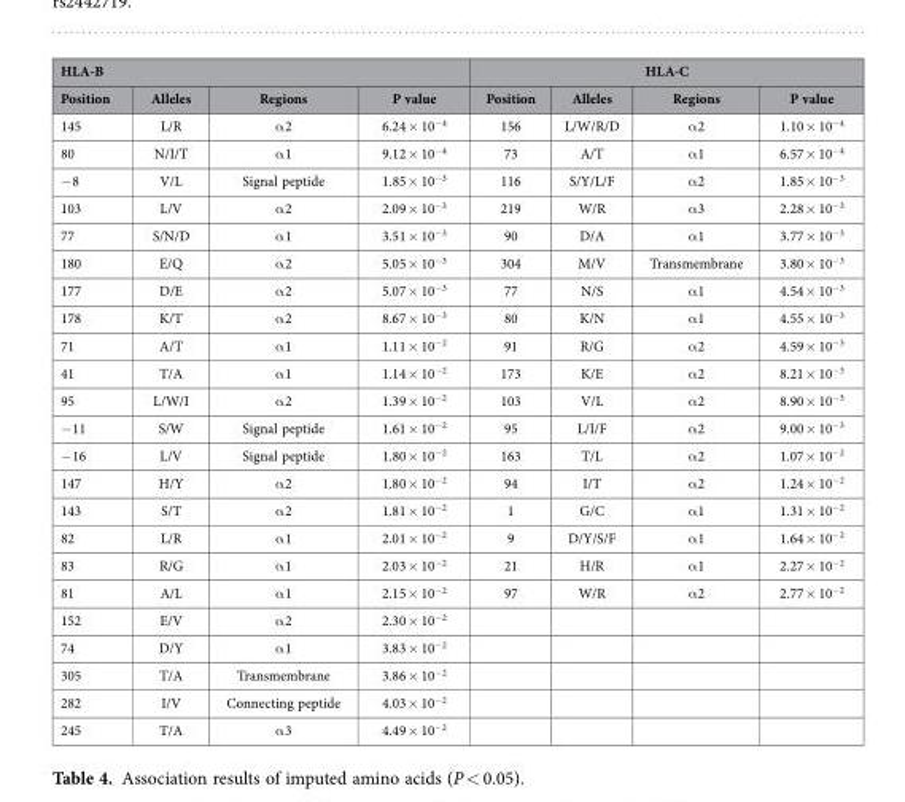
<table><thead><tr><td colspan="4">HLA-B</td><td colspan="4">HLA-C</td></tr><tr><td>Position</td><td>Alleles</td><td>Regions</td><td>P value</td><td>Position</td><td>Alleles</td><td>Regions</td><td>P value</td></tr></thead><tbody><tr><td>145</td><td>L/R</td><td>α 2</td><td>6.24 × 10<sup>−4</sup></td><td>156</td><td>L/W/R/D</td><td>α 2</td><td>1.10 × 10<sup>−4</sup></td></tr><tr><td>80</td><td>N/I/T</td><td>α 1</td><td>9.12 × 10<sup>−4</sup></td><td>73</td><td>A/T</td><td>α 1</td><td>6.57 × 10<sup>−4</sup></td></tr><tr><td>− 8</td><td>V/L</td><td>Signal peptide</td><td>1.85 × 10<sup>−3</sup></td><td>116</td><td>S/Y/L/F</td><td>α 2</td><td>1.85 × 10<sup>−3</sup></td></tr><tr><td>103</td><td>L/V</td><td>α 2</td><td>2.09 × 10<sup>−3</sup></td><td>219</td><td>W/R</td><td>α 3</td><td>2.28 × 10<sup>−3</sup></td></tr><tr><td>77</td><td>S/N/D</td><td>α 1</td><td>3.51 × 10<sup>−3</sup></td><td>90</td><td>D/A</td><td>α 1</td><td>3.77 × 10<sup>−3</sup></td></tr><tr><td>180</td><td>E/Q</td><td>α 2</td><td>5.05 × 10<sup>−3</sup></td><td>304</td><td>M/V</td><td>Transmembrane</td><td>3.80 × 10<sup>−3</sup></td></tr><tr><td>177</td><td>D/E</td><td>α 2</td><td>5.07 × 10<sup>−3</sup></td><td>77</td><td>N/S</td><td>α 1</td><td>4.54 × 10<sup>−3</sup></td></tr><tr><td>178</td><td>K/T</td><td>α 2</td><td>8.67 × 10<sup>−3</sup></td><td>80</td><td>K/N</td><td>α 1</td><td>4.55 × 10<sup>−3</sup></td></tr><tr><td>71</td><td>A/T</td><td>α 1</td><td>1.11 × 10<sup>−2</sup></td><td>91</td><td>R/G</td><td>α 2</td><td>4.59 × 10<sup>−3</sup></td></tr><tr><td>41</td><td>T/A</td><td>α 1</td><td>1.14 × 10<sup>−2</sup></td><td>173</td><td>K/E</td><td>α 2</td><td>8.21 × 10<sup>−3</sup></td></tr><tr><td>95</td><td>L/W/I</td><td>α 2</td><td>1.39 × 10<sup>−2</sup></td><td>103</td><td>V/L</td><td>α 2</td><td>8.90 × 10<sup>−3</sup></td></tr><tr><td>− 11</td><td>S/W</td><td>Signal peptide</td><td>1.61 × 10<sup>−2</sup></td><td>95</td><td>L/I/F</td><td>α 2</td><td>9.00 × 10<sup>−3</sup></td></tr><tr><td>− 16</td><td>L/V</td><td>Signal peptide</td><td>1.80 × 10<sup>−2</sup></td><td>163</td><td>T/L</td><td>α 2</td><td>1.07 × 10<sup>−2</sup></td></tr><tr><td>147</td><td>H/Y</td><td>α 2</td><td>1.80 × 10<sup>−2</sup></td><td>94</td><td>I/T</td><td>α 2</td><td>1.24 × 10<sup>−2</sup></td></tr><tr><td>143</td><td>S/T</td><td>α 2</td><td>1.81 × 10<sup>−2</sup></td><td>1</td><td>G/C</td><td>α 1</td><td>1.31 × 10<sup>−2</sup></td></tr><tr><td>82</td><td>L/R</td><td>α 1</td><td>2.01 × 10<sup>−2</sup></td><td>9</td><td>D/Y/S/F</td><td>α 1</td><td>1.64 × 10<sup>−2</sup></td></tr><tr><td>83</td><td>R/G</td><td>α 1</td><td>2.03 × 10<sup>−2</sup></td><td>21</td><td>H/R</td><td>α 1</td><td>2.27 × 10<sup>−2</sup></td></tr><tr><td>81</td><td>A/L</td><td>α 1</td><td>2.15 × 10<sup>−2</sup></td><td>97</td><td>W/R</td><td>α 2</td><td>2.77 × 10<sup>−2</sup></td></tr><tr><td>152</td><td>E/V</td><td>α 2</td><td>2.30 × 10<sup>−2</sup></td><td></td><td></td><td></td><td></td></tr><tr><td>74</td><td>D/Y</td><td>α 1</td><td>3.83 × 10<sup>−2</sup></td><td></td><td></td><td></td><td></td></tr><tr><td>305</td><td>T/A</td><td>Transmembrane</td><td>3.86 × 10<sup>−2</sup></td><td></td><td></td><td></td><td></td></tr><tr><td>282</td><td>I/V</td><td>Connecting peptide</td><td>4.03 × 10<sup>−2</sup></td><td></td><td></td><td></td><td></td></tr><tr><td>245</td><td>T/A</td><td>α 3</td><td>4.49 × 10<sup>−2</sup></td><td></td><td></td><td></td><td></td></tr></tbody></table>